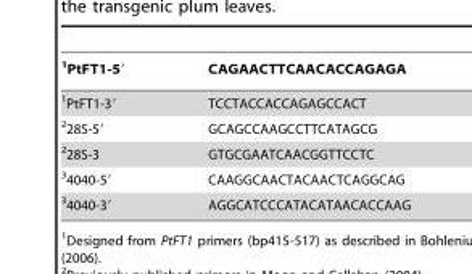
<table><thead><tr><td>1PtFT1-5′</td><td>CAGAACTTCAACACCAGAGA</td></tr></thead><tbody><tr><td>1PtFT1-3′</td><td>TCCTACCACCAGAGCCACT</td></tr><tr><td>228S-5′</td><td>GCAGCCAAGCCTTCATAGCG</td></tr><tr><td>228S-3</td><td>GTGCGAATCAACGGTTCCTC</td></tr><tr><td>34040-5′</td><td>CAAGGCAACTACAACTCAGGCAG</td></tr><tr><td>34040-3′</td><td>AGGCATCCCATACATAACACCAAG</td></tr></tbody></table>